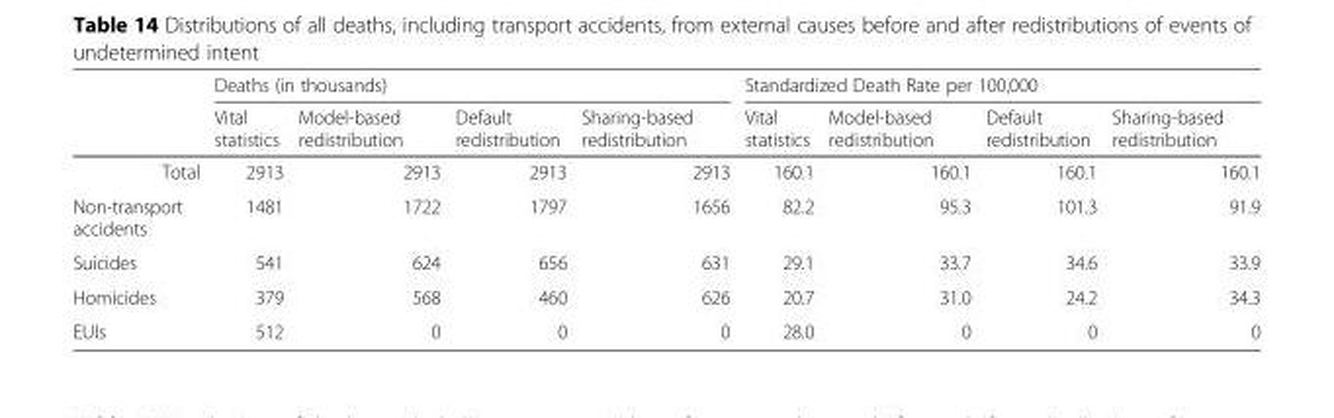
<table><thead><tr><td rowspan="2"></td><td colspan="4">Deaths (in thousands)</td><td colspan="4">Standardized Death Rate per 100,000</td></tr><tr><td>Vital statistics</td><td>Model-based redistribution</td><td>Default redistribution</td><td>Sharing-based redistribution</td><td>Vital statistics</td><td>Model-based redistribution</td><td>Default redistribution</td><td>Sharing-based redistribution</td></tr></thead><tbody><tr><td>Total</td><td>2913</td><td>2913</td><td>2913</td><td>2913</td><td>160.1</td><td>160.1</td><td>160.1</td><td>160.1</td></tr><tr><td>Non-transport accidents</td><td>1481</td><td>1722</td><td>1797</td><td>1656</td><td>82.2</td><td>95.3</td><td>101.3</td><td>91.9</td></tr><tr><td>Suicides</td><td>541</td><td>624</td><td>656</td><td>631</td><td>29.1</td><td>33.7</td><td>34.6</td><td>33.9</td></tr><tr><td>Homicides</td><td>379</td><td>568</td><td>460</td><td>626</td><td>20.7</td><td>31.0</td><td>24.2</td><td>34.3</td></tr><tr><td>EUIs</td><td>512</td><td>0</td><td>0</td><td>0</td><td>28.0</td><td>0</td><td>0</td><td>0</td></tr></tbody></table>